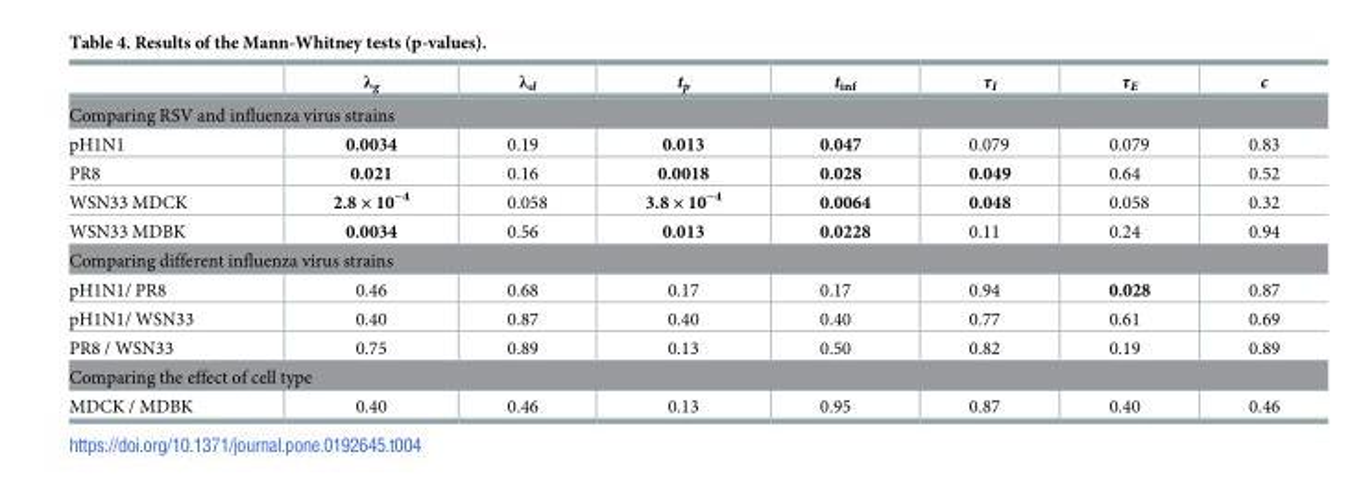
<table><thead><tr><td></td><td>λ<sub>g</sub></td><td>λ<sub>d</sub></td><td>t<sub>p</sub></td><td>t<sub>inf</sub></td><td>τ<sub>I</sub></td><td>τ<sub>E</sub></td><td>c</td></tr></thead><tbody><tr><td colspan="8">Comparing RSV and influenza virus strains</td></tr><tr><td>pH1N1</td><td>0.0034</td><td>0.19</td><td>0.013</td><td>0.047</td><td>0.079</td><td>0.079</td><td>0.83</td></tr><tr><td>PR8</td><td>0.021</td><td>0.16</td><td>0.0018</td><td>0.028</td><td>0.049</td><td>0.64</td><td>0.52</td></tr><tr><td>WSN33 MDCK</td><td>2.8 × 10<sup>−4</sup></td><td>0.058</td><td>3.8 × 10<sup>−4</sup></td><td>0.0064</td><td>0.048</td><td>0.058</td><td>0.32</td></tr><tr><td>WSN33 MDBK</td><td>0.0034</td><td>0.56</td><td>0.013</td><td>0.0228</td><td>0.11</td><td>0.24</td><td>0.94</td></tr><tr><td colspan="8">Comparing different influenza virus strains</td></tr><tr><td>pH1N1/ PR8</td><td>0.46</td><td>0.68</td><td>0.17</td><td>0.17</td><td>0.94</td><td>0.028</td><td>0.87</td></tr><tr><td>pH1N1/ WSN33</td><td>0.40</td><td>0.87</td><td>0.40</td><td>0.40</td><td>0.77</td><td>0.61</td><td>0.69</td></tr><tr><td>PR8 / WSN33</td><td>0.75</td><td>0.89</td><td>0.13</td><td>0.50</td><td>0.82</td><td>0.19</td><td>0.89</td></tr><tr><td colspan="8">Comparing the effect of cell type</td></tr><tr><td>MDCK / MDBK</td><td>0.40</td><td>0.46</td><td>0.13</td><td>0.95</td><td>0.87</td><td>0.40</td><td>0.46</td></tr></tbody></table>